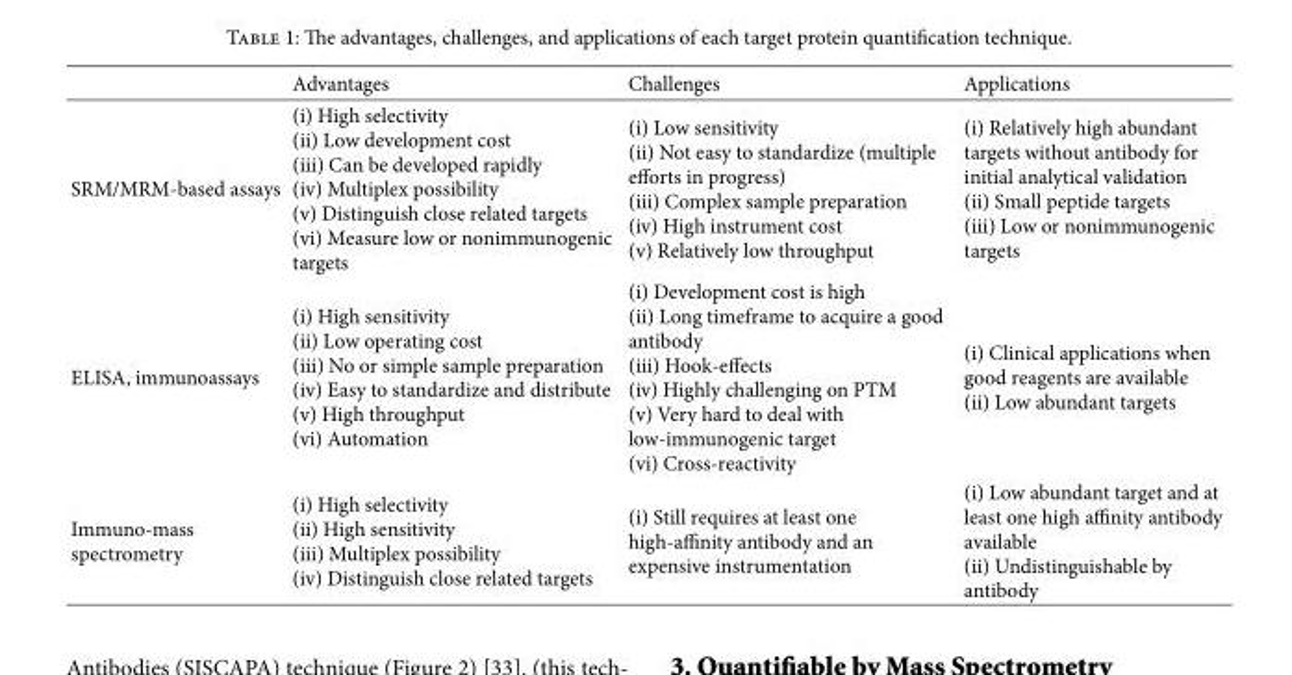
<table><thead><tr><td></td><td>Advantages</td><td>Challenges</td><td>Applications</td></tr></thead><tbody><tr><td>SRM/MRM-based assays</td><td>(i) High selectivity (ii) Low development cost (iii) Can be developed rapidly (iv) Multiplex possibility (v) Distinguish close related targets (vi) Measure low or nonimmunogenic targets</td><td>(i) Low sensitivity (ii) Not easy to standardize (multiple efforts in progress) (iii) Complex sample preparation (iv) High instrument cost (v) Relatively low throughput</td><td>(i) Relatively high abundant targets without antibody for initial analytical validation (ii) Small peptide targets (iii) Low or nonimmunogenic targets</td></tr><tr><td>ELISA, immunoassays</td><td>(i) High sensitivity (ii) Low operating cost (iii) No or simple sample preparation (iv) Easy to standardize and distribute (v) High throughput (vi) Automation</td><td>(i) Development cost is high (ii) Long timeframe to acquire a good antibody (iii) Hook-effects (iv) Highly challenging on PTM (v) Very hard to deal with low-immunogenic target (vi) Cross-reactivity</td><td>(i) Clinical applications when good reagents are available (ii) Low abundant targets</td></tr><tr><td>Immuno-mass spectrometry</td><td>(i) High selectivity (ii) High sensitivity (iii) Multiplex possibility (iv) Distinguish close related targets</td><td>(i) Still requires at least one high-affinity antibody and an expensive instrumentation</td><td>(i) Low abundant target and at least one high affinity antibody available (ii) Undistinguishable by antibody</td></tr></tbody></table>